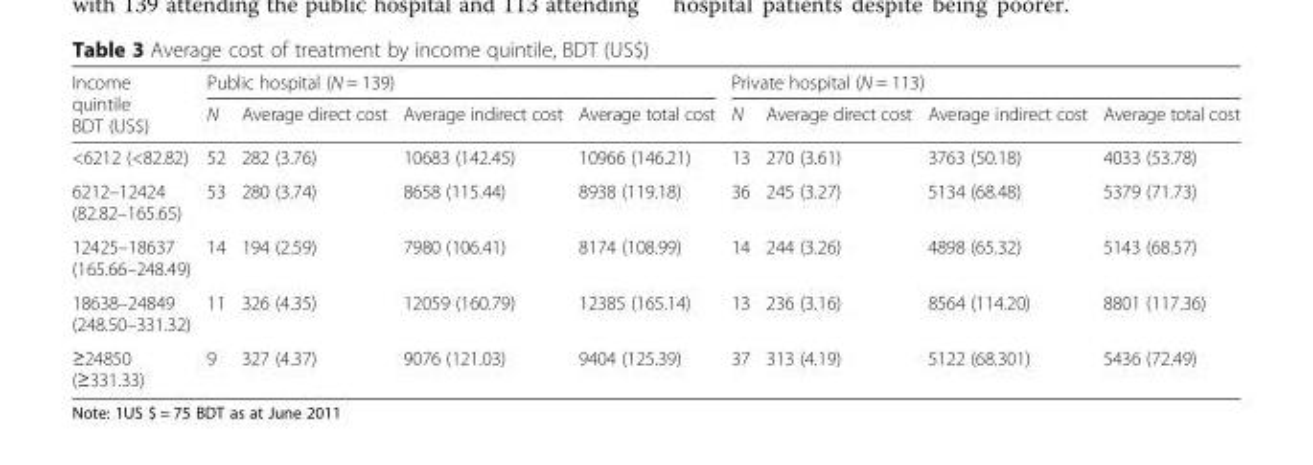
<table><thead><tr><td rowspan="2">Income quintile BDT (US$)</td><td colspan="4">Public hospital (N = 139)</td><td colspan="4">Private hospital (N = 113)</td></tr><tr><td>N</td><td>Average direct cost</td><td>Average indirect cost</td><td>Average total cost</td><td>N</td><td>Average direct cost</td><td>Average indirect cost</td><td>Average total cost</td></tr></thead><tbody><tr><td>&lt;6212 (&lt;82.82)</td><td>52</td><td>282 (3.76)</td><td>10683 (142.45)</td><td>10966 (146.21)</td><td>13</td><td>270 (3.61)</td><td>3763 (50.18)</td><td>4033 (53.78)</td></tr><tr><td>6212–12424 (82.82–165.65)</td><td>53</td><td>280 (3.74)</td><td>8658 (115.44)</td><td>8938 (119.18)</td><td>36</td><td>245 (3.27)</td><td>5134 (68.48)</td><td>5379 (71.73)</td></tr><tr><td>12425–18637 (165.66–248.49)</td><td>14</td><td>194 (2.59)</td><td>7980 (106.41)</td><td>8174 (108.99)</td><td>14</td><td>244 (3.26)</td><td>4898 (65.32)</td><td>5143 (68.57)</td></tr><tr><td>18638–24849 (248.50–331.32)</td><td>11</td><td>326 (4.35)</td><td>12059 (160.79)</td><td>12385 (165.14)</td><td>13</td><td>236 (3.16)</td><td>8564 (114.20)</td><td>8801 (117.36)</td></tr><tr><td>≥24850 (≥331.33)</td><td>9</td><td>327 (4.37)</td><td>9076 (121.03)</td><td>9404 (125.39)</td><td>37</td><td>313 (4.19)</td><td>5122 (68.301)</td><td>5436 (72.49)</td></tr></tbody></table>